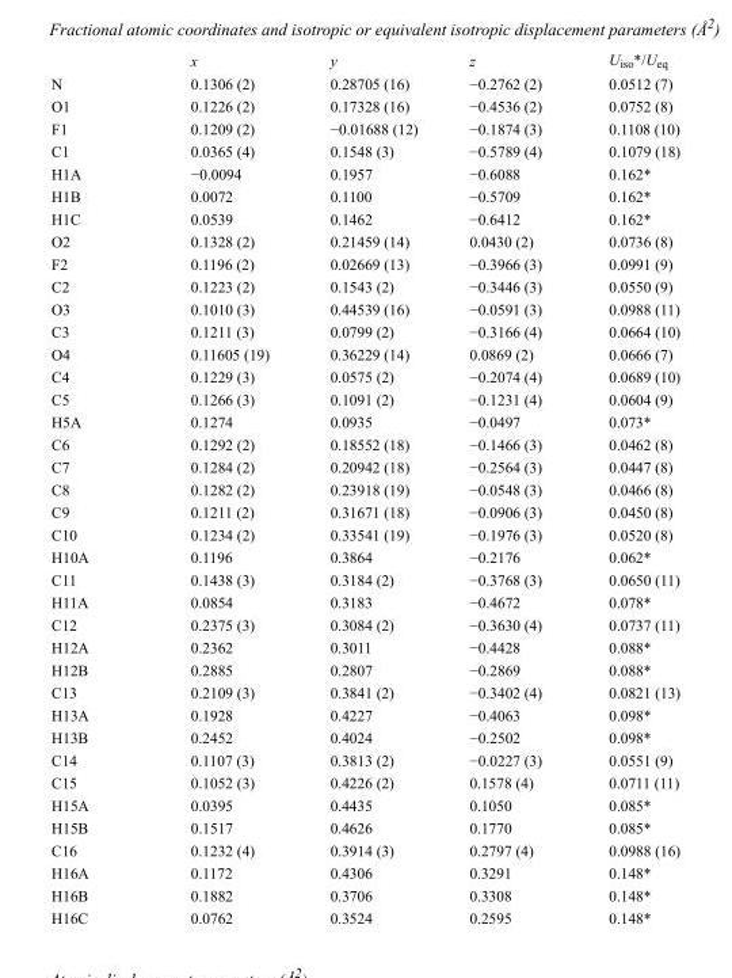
<table><thead><tr><td></td><td>x</td><td>y</td><td>z</td><td>U<sub>iso</sub>*/U<sub>eq</sub></td></tr></thead><tbody><tr><td>N</td><td>0.1306 (2)</td><td>0.28705 (16)</td><td>−0.2762 (2)</td><td>0.0512 (7)</td></tr><tr><td>O1</td><td>0.1226 (2)</td><td>0.17328 (16)</td><td>−0.4536 (2)</td><td>0.0752 (8)</td></tr><tr><td>F1</td><td>0.1209 (2)</td><td>−0.01688 (12)</td><td>−0.1874 (3)</td><td>0.1108 (10)</td></tr><tr><td>C1</td><td>0.0365 (4)</td><td>0.1548 (3)</td><td>−0.5789 (4)</td><td>0.1079 (18)</td></tr><tr><td>H1A</td><td>−0.0094</td><td>0.1957</td><td>−0.6088</td><td>0.162*</td></tr><tr><td>H1B</td><td>0.0072</td><td>0.1100</td><td>−0.5709</td><td>0.162*</td></tr><tr><td>H1C</td><td>0.0539</td><td>0.1462</td><td>−0.6412</td><td>0.162*</td></tr><tr><td>O2</td><td>0.1328 (2)</td><td>0.21459 (14)</td><td>0.0430 (2)</td><td>0.0736 (8)</td></tr><tr><td>F2</td><td>0.1196 (2)</td><td>0.02669 (13)</td><td>−0.3966 (3)</td><td>0.0991 (9)</td></tr><tr><td>C2</td><td>0.1223 (2)</td><td>0.1543 (2)</td><td>−0.3446 (3)</td><td>0.0550 (9)</td></tr><tr><td>O3</td><td>0.1010 (3)</td><td>0.44539 (16)</td><td>−0.0591 (3)</td><td>0.0988 (11)</td></tr><tr><td>C3</td><td>0.1211 (3)</td><td>0.0799 (2)</td><td>−0.3166 (4)</td><td>0.0664 (10)</td></tr><tr><td>O4</td><td>0.11605 (19)</td><td>0.36229 (14)</td><td>0.0869 (2)</td><td>0.0666 (7)</td></tr><tr><td>C4</td><td>0.1229 (3)</td><td>0.0575 (2)</td><td>−0.2074 (4)</td><td>0.0689 (10)</td></tr><tr><td>C5</td><td>0.1266 (3)</td><td>0.1091 (2)</td><td>−0.1231 (4)</td><td>0.0604 (9)</td></tr><tr><td>H5A</td><td>0.1274</td><td>0.0935</td><td>−0.0497</td><td>0.073*</td></tr><tr><td>C6</td><td>0.1292 (2)</td><td>0.18552 (18)</td><td>−0.1466 (3)</td><td>0.0462 (8)</td></tr><tr><td>C7</td><td>0.1284 (2)</td><td>0.20942 (18)</td><td>−0.2564 (3)</td><td>0.0447 (8)</td></tr><tr><td>C8</td><td>0.1282 (2)</td><td>0.23918 (19)</td><td>−0.0548 (3)</td><td>0.0466 (8)</td></tr><tr><td>C9</td><td>0.1211 (2)</td><td>0.31671 (18)</td><td>−0.0906 (3)</td><td>0.0450 (8)</td></tr><tr><td>C10</td><td>0.1234 (2)</td><td>0.33541 (19)</td><td>−0.1976 (3)</td><td>0.0520 (8)</td></tr><tr><td>H10A</td><td>0.1196</td><td>0.3864</td><td>−0.2176</td><td>0.062*</td></tr><tr><td>C11</td><td>0.1438 (3)</td><td>0.3184 (2)</td><td>−0.3768 (3)</td><td>0.0650 (11)</td></tr><tr><td>H11A</td><td>0.0854</td><td>0.3183</td><td>−0.4672</td><td>0.078*</td></tr><tr><td>C12</td><td>0.2375 (3)</td><td>0.3084 (2)</td><td>−0.3630 (4)</td><td>0.0737 (11)</td></tr><tr><td>H12A</td><td>0.2362</td><td>0.3011</td><td>−0.4428</td><td>0.088*</td></tr><tr><td>H12B</td><td>0.2885</td><td>0.2807</td><td>−0.2869</td><td>0.088*</td></tr><tr><td>C13</td><td>0.2109 (3)</td><td>0.3841 (2)</td><td>−0.3402 (4)</td><td>0.0821 (13)</td></tr><tr><td>H13A</td><td>0.1928</td><td>0.4227</td><td>−0.4063</td><td>0.098*</td></tr><tr><td>H13B</td><td>0.2452</td><td>0.4024</td><td>−0.2502</td><td>0.098*</td></tr><tr><td>C14</td><td>0.1107 (3)</td><td>0.3813 (2)</td><td>−0.0227 (3)</td><td>0.0551 (9)</td></tr><tr><td>C15</td><td>0.1052 (3)</td><td>0.4226 (2)</td><td>0.1578 (4)</td><td>0.0711 (11)</td></tr><tr><td>H15A</td><td>0.0395</td><td>0.4435</td><td>0.1050</td><td>0.085*</td></tr><tr><td>H15B</td><td>0.1517</td><td>0.4626</td><td>0.1770</td><td>0.085*</td></tr><tr><td>C16</td><td>0.1232 (4)</td><td>0.3914 (3)</td><td>0.2797 (4)</td><td>0.0988 (16)</td></tr><tr><td>H16A</td><td>0.1172</td><td>0.4306</td><td>0.3291</td><td>0.148*</td></tr><tr><td>H16B</td><td>0.1882</td><td>0.3706</td><td>0.3308</td><td>0.148*</td></tr><tr><td>H16C</td><td>0.0762</td><td>0.3524</td><td>0.2595</td><td>0.148*</td></tr></tbody></table>